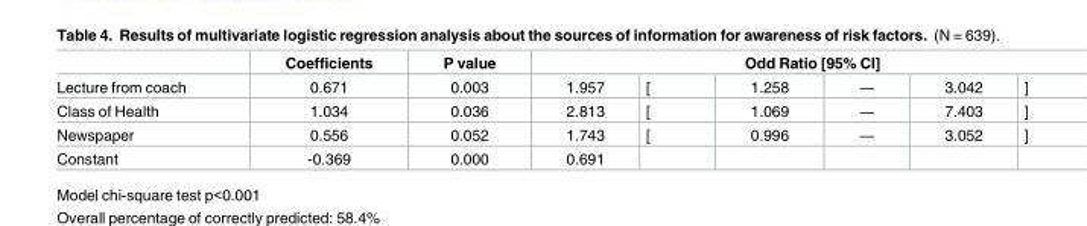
<table><thead><tr><td rowspan="2">Lecture from coach</td><td rowspan="2">Coefficients 0.671</td><td rowspan="2">P value 0.003</td><td colspan="6">Odd Ratio [95% CI]</td></tr><tr><td>1.957</td><td>[</td><td>1.258</td><td>―</td><td>3.042</td><td>]</td></tr></thead><tbody><tr><td>Class of Health</td><td>1.034</td><td>0.036</td><td>2.813</td><td>[</td><td>1.069</td><td>―</td><td>7.403</td><td>]</td></tr><tr><td>Newspaper</td><td>0.556</td><td>0.052</td><td>1.743</td><td>[</td><td>0.996</td><td>―</td><td>3.052</td><td>]</td></tr><tr><td>Constant</td><td>-0.369</td><td>0.000</td><td>0.691</td><td></td><td></td><td></td><td></td><td></td></tr></tbody></table>